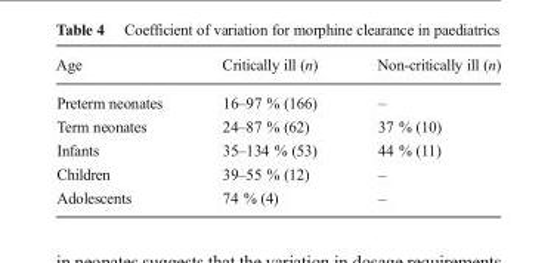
<table><thead><tr><td>Age</td><td>Critically ill (n)</td><td>Non-critically ill (n)</td></tr></thead><tbody><tr><td>Preterm neonates</td><td>16–97 % (166)</td><td>–</td></tr><tr><td>Term neonates</td><td>24–87 % (62)</td><td>37 % (10)</td></tr><tr><td>Infants</td><td>35–134 % (53)</td><td>44 % (11)</td></tr><tr><td>Children</td><td>39–55 % (12)</td><td>–</td></tr><tr><td>Adolescents</td><td>74 % (4)</td><td>–</td></tr></tbody></table>